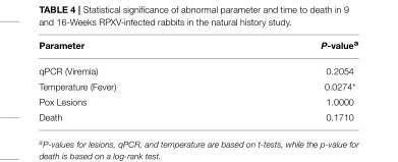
<table><thead><tr><td>Parameter</td><td>P-value<sup>a</sup></td></tr></thead><tbody><tr><td>qPCR (Viremia)</td><td>0.2054</td></tr><tr><td>Temperature (Fever)</td><td>0.0274*</td></tr><tr><td>Pox Lesions</td><td>1.0000</td></tr><tr><td>Death</td><td>0.1710</td></tr></tbody></table>